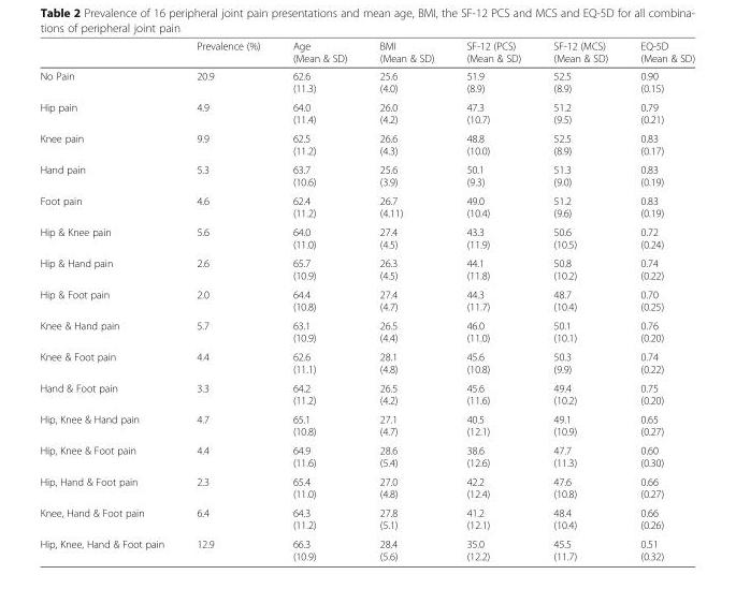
<table><thead><tr><td></td><td>Prevalence (%)</td><td>Age (Mean &amp; SD)</td><td>BMI (Mean &amp; SD)</td><td>SF-12 (PCS) (Mean &amp; SD)</td><td>SF-12 (MCS) (Mean &amp; SD)</td><td>EQ-5D (Mean &amp; SD)</td></tr></thead><tbody><tr><td>No Pain</td><td>20.9</td><td>62.6 (11.3)</td><td>25.6 (4.0)</td><td>51.9 (8.9)</td><td>52.5 (8.9)</td><td>0.90 (0.15)</td></tr><tr><td>Hip pain</td><td>4.9</td><td>64.0 (11.4)</td><td>26.0 (4.2)</td><td>47.3 (10.7)</td><td>51.2 (9.5)</td><td>0.79 (0.21)</td></tr><tr><td>Knee pain</td><td>9.9</td><td>62.5 (11.2)</td><td>26.6 (4.3)</td><td>48.8 (10.0)</td><td>52.5 (8.9)</td><td>0.83 (0.17)</td></tr><tr><td>Hand pain</td><td>5.3</td><td>63.7 (10.6)</td><td>25.6 (3.9)</td><td>50.1 (9.3)</td><td>51.3 (9.0)</td><td>0.83 (0.19)</td></tr><tr><td>Foot pain</td><td>4.6</td><td>62.4 (11.2)</td><td>26.7 (4.11)</td><td>49.0 (10.4)</td><td>51.2 (9.6)</td><td>0.83 (0.19)</td></tr><tr><td>Hip &amp; Knee pain</td><td>5.6</td><td>64.0 (11.0)</td><td>27.4 (4.5)</td><td>43.3 (11.9)</td><td>50.6 (10.5)</td><td>0.72 (0.24)</td></tr><tr><td>Hip &amp; Hand pain</td><td>2.6</td><td>65.7 (10.9)</td><td>26.3 (4.5)</td><td>44.1 (11.8)</td><td>50.8 (10.2)</td><td>0.74 (0.22)</td></tr><tr><td>Hip &amp; Foot pain</td><td>2.0</td><td>64.4 (10.8)</td><td>27.4 (4.7)</td><td>44.3 (11.7)</td><td>48.7 (10.4)</td><td>0.70 (0.25)</td></tr><tr><td>Knee &amp; Hand pain</td><td>5.7</td><td>63.1 (10.9)</td><td>26.5 (4.4)</td><td>46.0 (11.0)</td><td>50.1 (10.1)</td><td>0.76 (0.20)</td></tr><tr><td>Knee &amp; Foot pain</td><td>4.4</td><td>62.6 (11.1)</td><td>28.1 (4.8)</td><td>45.6 (10.8)</td><td>50.3 (9.9)</td><td>0.74 (0.22)</td></tr><tr><td>Hand &amp; Foot pain</td><td>3.3</td><td>64.2 (11.2)</td><td>26.5 (4.2)</td><td>45.6 (11.6)</td><td>49.4 (10.2)</td><td>0.75 (0.20)</td></tr><tr><td>Hip, Knee &amp; Hand pain</td><td>4.7</td><td>65.1 (10.8)</td><td>27.1 (4.7)</td><td>40.5 (12.1)</td><td>49.1 (10.9)</td><td>0.65 (0.27)</td></tr><tr><td>Hip, Knee &amp; Foot pain</td><td>4.4</td><td>64.9 (11.6)</td><td>28.6 (5.4)</td><td>38.6 (12.6)</td><td>47.7 (11.3)</td><td>0.60 (0.30)</td></tr><tr><td>Hip, Hand &amp; Foot pain</td><td>2.3</td><td>65.4 (11.0)</td><td>27.0 (4.8)</td><td>42.2 (12.4)</td><td>47.6 (10.8)</td><td>0.66 (0.27)</td></tr><tr><td>Knee, Hand &amp; Foot pain</td><td>6.4</td><td>64.3 (11.2)</td><td>27.8 (5.1)</td><td>41.2 (12.1)</td><td>48.4 (10.4)</td><td>0.66 (0.26)</td></tr><tr><td>Hip, Knee, Hand &amp; Foot pain</td><td>12.9</td><td>66.3 (10.9)</td><td>28.4 (5.6)</td><td>35.0 (12.2)</td><td>45.5 (11.7)</td><td>0.51 (0.32)</td></tr></tbody></table>